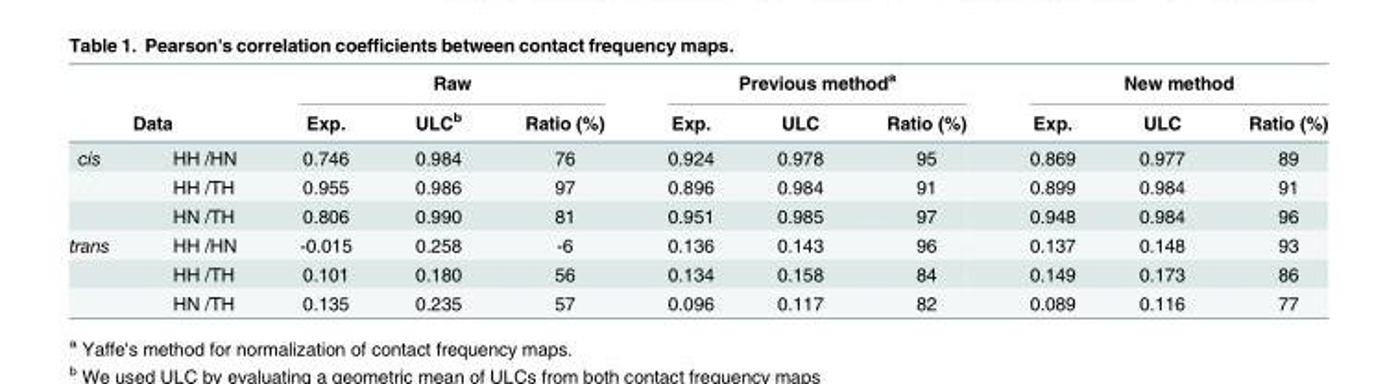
<table><thead><tr><td></td><td></td><td colspan="3">Raw</td><td colspan="3">Previous method<sup>a</sup></td><td colspan="3">New method</td></tr><tr><td colspan="2">Data</td><td>Exp.</td><td>ULC<sup>b</sup></td><td>Ratio (%)</td><td>Exp.</td><td>ULC</td><td>Ratio (%)</td><td>Exp.</td><td>ULC</td><td>Ratio (%)</td></tr></thead><tbody><tr><td rowspan="3">cis</td><td>HH /HN</td><td>0.746</td><td>0.984</td><td>76</td><td>0.924</td><td>0.978</td><td>95</td><td>0.869</td><td>0.977</td><td>89</td></tr><tr><td>HH /TH</td><td>0.955</td><td>0.986</td><td>97</td><td>0.896</td><td>0.984</td><td>91</td><td>0.899</td><td>0.984</td><td>91</td></tr><tr><td>HN /TH</td><td>0.806</td><td>0.990</td><td>81</td><td>0.951</td><td>0.985</td><td>97</td><td>0.948</td><td>0.984</td><td>96</td></tr><tr><td rowspan="3">trans</td><td>HH /HN</td><td>-0.015</td><td>0.258</td><td>-6</td><td>0.136</td><td>0.143</td><td>96</td><td>0.137</td><td>0.148</td><td>93</td></tr><tr><td>HH /TH</td><td>0.101</td><td>0.180</td><td>56</td><td>0.134</td><td>0.158</td><td>84</td><td>0.149</td><td>0.173</td><td>86</td></tr><tr><td>HN /TH</td><td>0.135</td><td>0.235</td><td>57</td><td>0.096</td><td>0.117</td><td>82</td><td>0.089</td><td>0.116</td><td>77</td></tr></tbody></table>